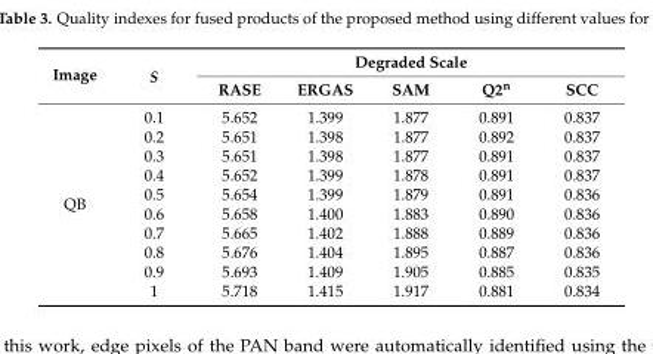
<table><thead><tr><td rowspan="2">Image</td><td rowspan="2">S</td><td colspan="5">Degraded Scale</td></tr><tr><td>RASE</td><td>ERGAS</td><td>SAM</td><td>Q2<sup>n</sup></td><td>SCC</td></tr></thead><tbody><tr><td rowspan="10">QB</td><td>0.1</td><td>5.652</td><td>1.399</td><td>1.877</td><td>0.891</td><td>0.837</td></tr><tr><td>0.2</td><td>5.651</td><td>1.398</td><td>1.877</td><td>0.892</td><td>0.837</td></tr><tr><td>0.3</td><td>5.651</td><td>1.398</td><td>1.877</td><td>0.891</td><td>0.837</td></tr><tr><td>0.4</td><td>5.652</td><td>1.399</td><td>1.878</td><td>0.891</td><td>0.837</td></tr><tr><td>0.5</td><td>5.654</td><td>1.399</td><td>1.879</td><td>0.891</td><td>0.836</td></tr><tr><td>0.6</td><td>5.658</td><td>1.400</td><td>1.883</td><td>0.890</td><td>0.836</td></tr><tr><td>0.7</td><td>5.665</td><td>1.402</td><td>1.888</td><td>0.889</td><td>0.836</td></tr><tr><td>0.8</td><td>5.676</td><td>1.404</td><td>1.895</td><td>0.887</td><td>0.836</td></tr><tr><td>0.9</td><td>5.693</td><td>1.409</td><td>1.905</td><td>0.885</td><td>0.835</td></tr><tr><td>1</td><td>5.718</td><td>1.415</td><td>1.917</td><td>0.881</td><td>0.834</td></tr></tbody></table>